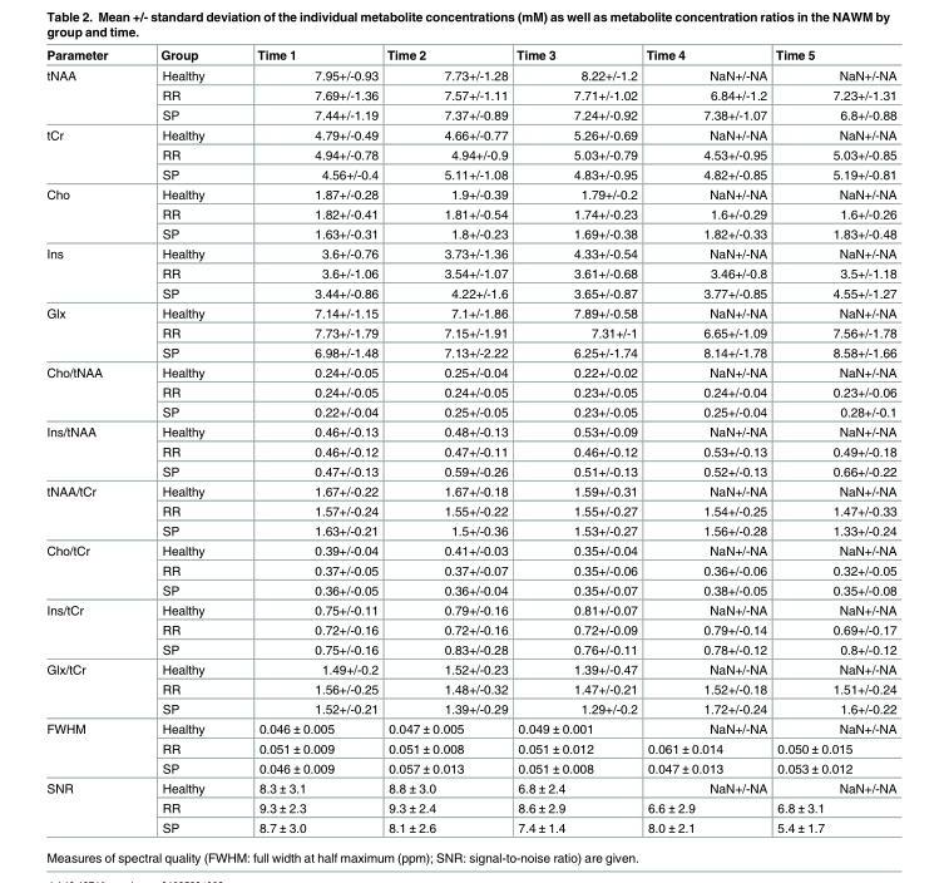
<table><thead><tr><td>Parameter</td><td>Group</td><td>Time 1</td><td>Time 2</td><td>Time 3</td><td>Time 4</td><td>Time 5</td></tr></thead><tbody><tr><td rowspan="3">tNAA</td><td>Healthy</td><td>7.95+/-0.93</td><td>7.73+/-1.28</td><td>8.22+/-1.2</td><td>NaN+/-NA</td><td>NaN+/-NA</td></tr><tr><td>RR</td><td>7.69+/-1.36</td><td>7.57+/-1.11</td><td>7.71+/-1.02</td><td>6.84+/-1.2</td><td>7.23+/-1.31</td></tr><tr><td>SP</td><td>7.44+/-1.19</td><td>7.37+/-0.89</td><td>7.24+/-0.92</td><td>7.38+/-1.07</td><td>6.8+/-0.88</td></tr><tr><td rowspan="3">tCr</td><td>Healthy</td><td>4.79+/-0.49</td><td>4.66+/-0.77</td><td>5.26+/-0.69</td><td>NaN+/-NA</td><td>NaN+/-NA</td></tr><tr><td>RR</td><td>4.94+/-0.78</td><td>4.94+/-0.9</td><td>5.03+/-0.79</td><td>4.53+/-0.95</td><td>5.03+/-0.85</td></tr><tr><td>SP</td><td>4.56+/-0.4</td><td>5.11+/-1.08</td><td>4.83+/-0.95</td><td>4.82+/-0.85</td><td>5.19+/-0.81</td></tr><tr><td rowspan="3">Cho</td><td>Healthy</td><td>1.87+/-0.28</td><td>1.9+/-0.39</td><td>1.79+/-0.2</td><td>NaN+/-NA</td><td>NaN+/-NA</td></tr><tr><td>RR</td><td>1.82+/-0.41</td><td>1.81+/-0.54</td><td>1.74+/-0.23</td><td>1.6+/-0.29</td><td>1.6+/-0.26</td></tr><tr><td>SP</td><td>1.63+/-0.31</td><td>1.8+/-0.23</td><td>1.69+/-0.38</td><td>1.82+/-0.33</td><td>1.83+/-0.48</td></tr><tr><td rowspan="3">Ins</td><td>Healthy</td><td>3.6+/-0.76</td><td>3.73+/-1.36</td><td>4.33+/-0.54</td><td>NaN+/-NA</td><td>NaN+/-NA</td></tr><tr><td>RR</td><td>3.6+/-1.06</td><td>3.54+/-1.07</td><td>3.61+/-0.68</td><td>3.46+/-0.8</td><td>3.5+/-1.18</td></tr><tr><td>SP</td><td>3.44+/-0.86</td><td>4.22+/-1.6</td><td>3.65+/-0.87</td><td>3.77+/-0.85</td><td>4.55+/-1.27</td></tr><tr><td rowspan="3">Glx</td><td>Healthy</td><td>7.14+/-1.15</td><td>7.1+/-1.86</td><td>7.89+/-0.58</td><td>NaN+/-NA</td><td>NaN+/-NA</td></tr><tr><td>RR</td><td>7.73+/-1.79</td><td>7.15+/-1.91</td><td>7.31+/-1</td><td>6.65+/-1.09</td><td>7.56+/-1.78</td></tr><tr><td>SP</td><td>6.98+/-1.48</td><td>7.13+/-2.22</td><td>6.25+/-1.74</td><td>8.14+/-1.78</td><td>8.58+/-1.66</td></tr><tr><td rowspan="3">Cho/tNAA</td><td>Healthy</td><td>0.24+/-0.05</td><td>0.25+/-0.04</td><td>0.22+/-0.02</td><td>NaN+/-NA</td><td>NaN+/-NA</td></tr><tr><td>RR</td><td>0.24+/-0.05</td><td>0.24+/-0.05</td><td>0.23+/-0.05</td><td>0.24+/-0.04</td><td>0.23+/-0.06</td></tr><tr><td>SP</td><td>0.22+/-0.04</td><td>0.25+/-0.05</td><td>0.23+/-0.05</td><td>0.25+/-0.04</td><td>0.28+/-0.1</td></tr><tr><td rowspan="3">Ins/tNAA</td><td>Healthy</td><td>0.46+/-0.13</td><td>0.48+/-0.13</td><td>0.53+/-0.09</td><td>NaN+/-NA</td><td>NaN+/-NA</td></tr><tr><td>RR</td><td>0.46+/-0.12</td><td>0.47+/-0.11</td><td>0.46+/-0.12</td><td>0.53+/-0.13</td><td>0.49+/-0.18</td></tr><tr><td>SP</td><td>0.47+/-0.13</td><td>0.59+/-0.26</td><td>0.51+/-0.13</td><td>0.52+/-0.13</td><td>0.66+/-0.22</td></tr><tr><td rowspan="3">tNAA/tCr</td><td>Healthy</td><td>1.67+/-0.22</td><td>1.67+/-0.18</td><td>1.59+/-0.31</td><td>NaN+/-NA</td><td>NaN+/-NA</td></tr><tr><td>RR</td><td>1.57+/-0.24</td><td>1.55+/-0.22</td><td>1.55+/-0.27</td><td>1.54+/-0.25</td><td>1.47+/-0.33</td></tr><tr><td>SP</td><td>1.63+/-0.21</td><td>1.5+/-0.36</td><td>1.53+/-0.27</td><td>1.56+/-0.28</td><td>1.33+/-0.24</td></tr><tr><td rowspan="3">Cho/tCr</td><td>Healthy</td><td>0.39+/-0.04</td><td>0.41+/-0.03</td><td>0.35+/-0.04</td><td>NaN+/-NA</td><td>NaN+/-NA</td></tr><tr><td>RR</td><td>0.37+/-0.05</td><td>0.37+/-0.07</td><td>0.35+/-0.06</td><td>0.36+/-0.06</td><td>0.32+/-0.05</td></tr><tr><td>SP</td><td>0.36+/-0.05</td><td>0.36+/-0.04</td><td>0.35+/-0.07</td><td>0.38+/-0.05</td><td>0.35+/-0.08</td></tr><tr><td rowspan="3">Ins/tCr</td><td>Healthy</td><td>0.75+/-0.11</td><td>0.79+/-0.16</td><td>0.81+/-0.07</td><td>NaN+/-NA</td><td>NaN+/-NA</td></tr><tr><td>RR</td><td>0.72+/-0.16</td><td>0.72+/-0.16</td><td>0.72+/-0.09</td><td>0.79+/-0.14</td><td>0.69+/-0.17</td></tr><tr><td>SP</td><td>0.75+/-0.16</td><td>0.83+/-0.28</td><td>0.76+/-0.11</td><td>0.78+/-0.12</td><td>0.8+/-0.12</td></tr><tr><td rowspan="3">Glx/tCr</td><td>Healthy</td><td>1.49+/-0.2</td><td>1.52+/-0.23</td><td>1.39+/-0.47</td><td>NaN+/-NA</td><td>NaN+/-NA</td></tr><tr><td>RR</td><td>1.56+/-0.25</td><td>1.48+/-0.32</td><td>1.47+/-0.21</td><td>1.52+/-0.18</td><td>1.51+/-0.24</td></tr><tr><td>SP</td><td>1.52+/-0.21</td><td>1.39+/-0.29</td><td>1.29+/-0.2</td><td>1.72+/-0.24</td><td>1.6+/-0.22</td></tr><tr><td rowspan="3">FWHM</td><td>Healthy</td><td>0.046 ± 0.005</td><td>0.047 ± 0.005</td><td>0.049 ± 0.001</td><td>NaN+/-NA</td><td>NaN+/-NA</td></tr><tr><td>RR</td><td>0.051 ± 0.009</td><td>0.051 ± 0.008</td><td>0.051 ± 0.012</td><td>0.061 ± 0.014</td><td>0.050 ± 0.015</td></tr><tr><td>SP</td><td>0.046 ± 0.009</td><td>0.057 ± 0.013</td><td>0.051 ± 0.008</td><td>0.047 ± 0.013</td><td>0.053 ± 0.012</td></tr><tr><td rowspan="3">SNR</td><td>Healthy</td><td>8.3 ± 3.1</td><td>8.8 ± 3.0</td><td>6.8 ± 2.4</td><td>NaN+/-NA</td><td>NaN+/-NA</td></tr><tr><td>RR</td><td>9.3 ± 2.3</td><td>9.3 ± 2.4</td><td>8.6 ± 2.9</td><td>6.6 ± 2.9</td><td>6.8 ± 3.1</td></tr><tr><td>SP</td><td>8.7 ± 3.0</td><td>8.1 ± 2.6</td><td>7.4 ± 1.4</td><td>8.0 ± 2.1</td><td>5.4 ± 1.7</td></tr></tbody></table>